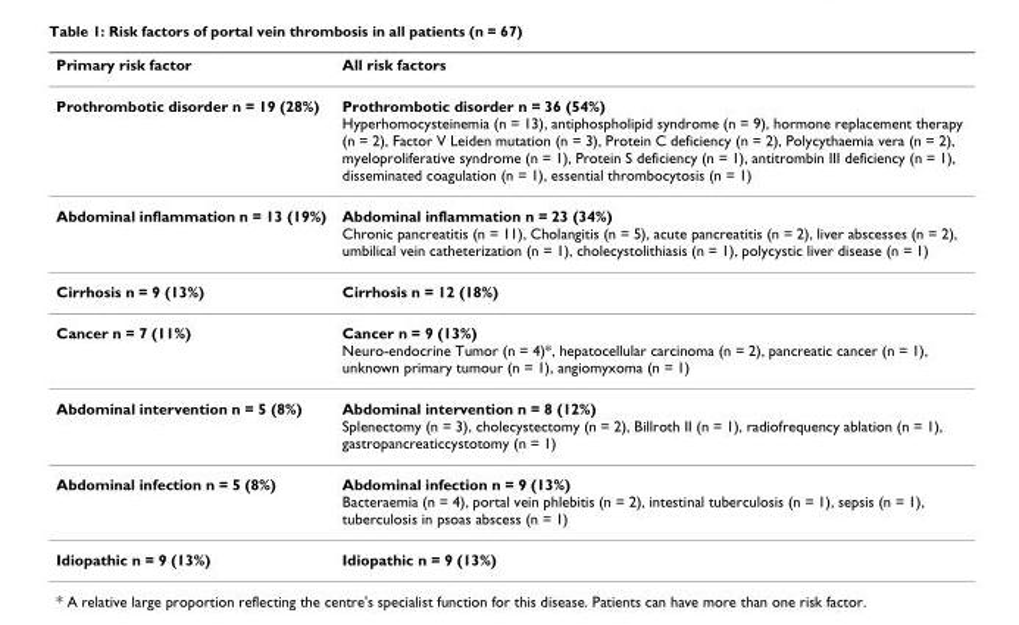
<table><thead><tr><td>Primary risk factor</td><td>All risk factors</td></tr></thead><tbody><tr><td>Prothrombotic disorder n = 19 (28%)</td><td>Prothrombotic disorder n = 36 (54%) Hyperhomocysteinemia (n = 13), antiphospholipid syndrome (n = 9), hormone replacement therapy (n = 2), Factor V Leiden mutation (n = 3), Protein C deficiency (n = 2), Polycythaemia vera (n = 2), myeloproliferative syndrome (n = 1), Protein S deficiency (n = 1), antitrombin III deficiency (n = 1), disseminated coagulation (n = 1), essential thrombocytosis (n = 1)</td></tr><tr><td>Abdominal inflammation n = 13 (19%)</td><td>Abdominal inflammation n = 23 (34%) Chronic pancreatitis (n = 11), Cholangitis (n = 5), acute pancreatitis (n = 2), liver abscesses (n = 2), umbilical vein catheterization (n = 1), cholecystolithiasis (n = 1), polycystic liver disease (n = 1)</td></tr><tr><td>Cirrhosis n = 9 (13%)</td><td>Cirrhosis n = 12 (18%)</td></tr><tr><td>Cancer n = 7 (11%)</td><td>Cancer n = 9 (13%) Neuro-endocrine Tumor (n = 4)*, hepatocellular carcinoma (n = 2), pancreatic cancer (n = 1), unknown primary tumour (n = 1), angiomyxoma (n = 1)</td></tr><tr><td>Abdominal intervention n = 5 (8%)</td><td>Abdominal intervention n = 8 (12%) Splenectomy (n = 3), cholecystectomy (n = 2), Billroth II (n = 1), radiofrequency ablation (n = 1), gastropancreaticcystotomy (n = 1)</td></tr><tr><td>Abdominal infection n = 5 (8%)</td><td>Abdominal infection n = 9 (13%) Bacteraemia (n = 4), portal vein phlebitis (n = 2), intestinal tuberculosis (n = 1), sepsis (n = 1), tuberculosis in psoas abscess (n = 1)</td></tr><tr><td>Idiopathic n = 9 (13%)</td><td>Idiopathic n = 9 (13%)</td></tr></tbody></table>